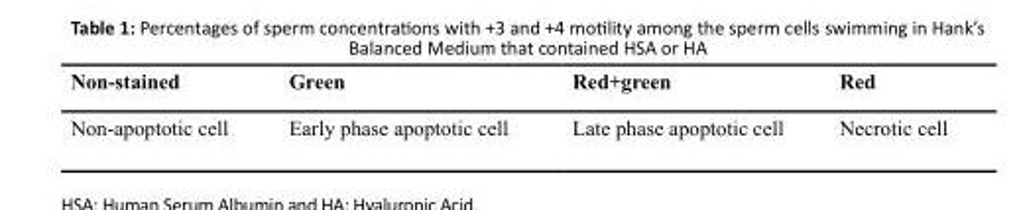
<table><thead><tr><td>Non-stained</td><td>Green</td><td>Red+green</td><td>Red</td></tr></thead><tbody><tr><td>Non-apoptotic cell</td><td>Early phase apoptotic cell</td><td>Late phase apoptotic cell</td><td>Necrotic cell</td></tr></tbody></table>